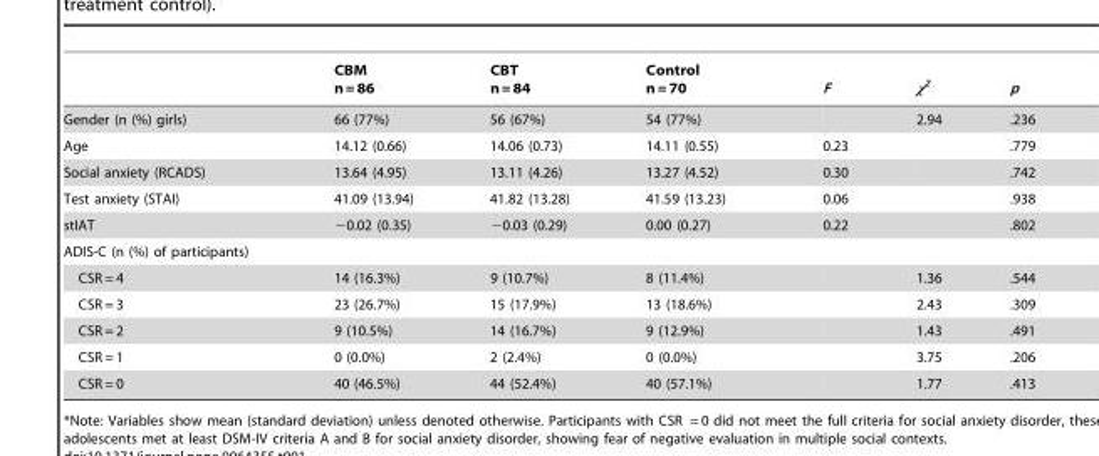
<table><thead><tr><td></td><td>CBM n = 86</td><td>CBT n = 84</td><td>Control n = 70</td><td>F</td><td>χ<sup>2</sup></td><td>p</td></tr></thead><tbody><tr><td>Gender (n (%) girls)</td><td>66 (77%)</td><td>56 (67%)</td><td>54 (77%)</td><td></td><td>2.94</td><td>.236</td></tr><tr><td>Age</td><td>14.12 (0.66)</td><td>14.06 (0.73)</td><td>14.11 (0.55)</td><td>0.23</td><td></td><td>.779</td></tr><tr><td>Social anxiety (RCADS)</td><td>13.64 (4.95)</td><td>13.11 (4.26)</td><td>13.27 (4.52)</td><td>0.30</td><td></td><td>.742</td></tr><tr><td>Test anxiety (STAI)</td><td>41.09 (13.94)</td><td>41.82 (13.28)</td><td>41.59 (13.23)</td><td>0.06</td><td></td><td>.938</td></tr><tr><td>stIAT</td><td>−0.02 (0.35)</td><td>−0.03 (0.29)</td><td>0.00 (0.27)</td><td>0.22</td><td></td><td>.802</td></tr><tr><td colspan="7">ADIS-C (n (%) of participants)</td></tr><tr><td>CSR = 4</td><td>14 (16.3%)</td><td>9 (10.7%)</td><td>8 (11.4%)</td><td></td><td>1.36</td><td>.544</td></tr><tr><td>CSR = 3</td><td>23 (26.7%)</td><td>15 (17.9%)</td><td>13 (18.6%)</td><td></td><td>2.43</td><td>.309</td></tr><tr><td>CSR = 2</td><td>9 (10.5%)</td><td>14 (16.7%)</td><td>9 (12.9%)</td><td></td><td>1.43</td><td>.491</td></tr><tr><td>CSR = 1</td><td>0 (0.0%)</td><td>2 (2.4%)</td><td>0 (0.0%)</td><td></td><td>3.75</td><td>.206</td></tr><tr><td>CSR = 0</td><td>40 (46.5%)</td><td>44 (52.4%)</td><td>40 (57.1%)</td><td></td><td>1.77</td><td>.413</td></tr></tbody></table>